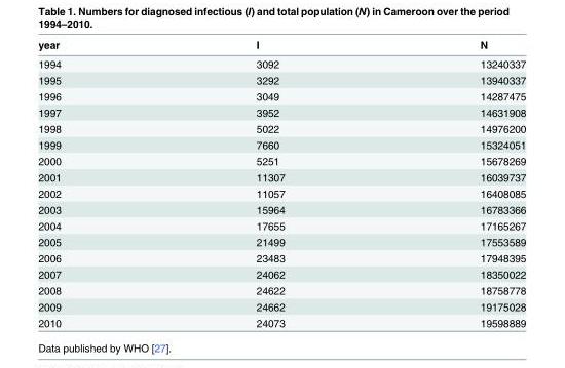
<table><thead><tr><td>year</td><td>I</td><td>N</td></tr></thead><tbody><tr><td>1994</td><td>3092</td><td>13240337</td></tr><tr><td>1995</td><td>3292</td><td>13940337</td></tr><tr><td>1996</td><td>3049</td><td>14287475</td></tr><tr><td>1997</td><td>3952</td><td>14631908</td></tr><tr><td>1998</td><td>5022</td><td>14976200</td></tr><tr><td>1999</td><td>7660</td><td>15324051</td></tr><tr><td>2000</td><td>5251</td><td>15678269</td></tr><tr><td>2001</td><td>11307</td><td>16039737</td></tr><tr><td>2002</td><td>11057</td><td>16408085</td></tr><tr><td>2003</td><td>15964</td><td>16783366</td></tr><tr><td>2004</td><td>17655</td><td>17165267</td></tr><tr><td>2005</td><td>21499</td><td>17553589</td></tr><tr><td>2006</td><td>23483</td><td>17948395</td></tr><tr><td>2007</td><td>24062</td><td>18350022</td></tr><tr><td>2008</td><td>24622</td><td>18758778</td></tr><tr><td>2009</td><td>24662</td><td>19175028</td></tr><tr><td>2010</td><td>24073</td><td>19598889</td></tr></tbody></table>